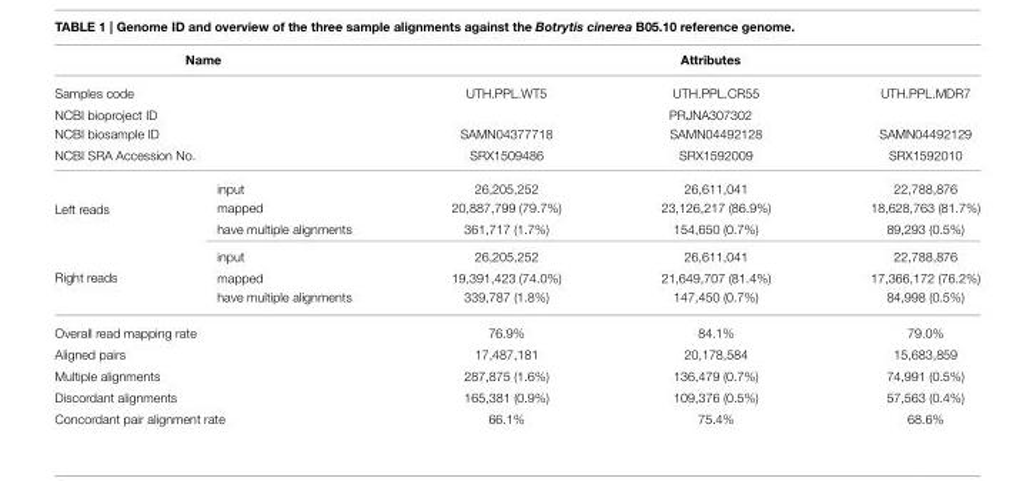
<table><thead><tr><td colspan="2">Name</td><td colspan="3">Attributes</td></tr></thead><tbody><tr><td colspan="2">Samples code</td><td>UTH.PPL.WT5</td><td>UTH.PPL.CR55</td><td>UTH.PPL.MDR7</td></tr><tr><td colspan="2">NCBI bioproject ID</td><td colspan="3">PRJNA307302</td></tr><tr><td colspan="2">NCBI biosample ID</td><td>SAMN04377718</td><td>SAMN04492128</td><td>SAMN04492129</td></tr><tr><td colspan="2">NCBI SRA Accession No.</td><td>SRX1509486</td><td>SRX1592009</td><td>SRX1592010</td></tr><tr><td rowspan="3">Left reads</td><td>input</td><td>26,205,252</td><td>26,611,041</td><td>22,788,876</td></tr><tr><td>mapped</td><td>20,887,799 (79.7%)</td><td>23,126,217 (86.9%)</td><td>18,628,763 (81.7%)</td></tr><tr><td>have multiple alignments</td><td>361,717 (1.7%)</td><td>154,650 (0.7%)</td><td>89,293 (0.5%)</td></tr><tr><td rowspan="3">Right reads</td><td>input</td><td>26,205,252</td><td>26,611,041</td><td>22,788,876</td></tr><tr><td>mapped</td><td>19,391,423 (74.0%)</td><td>21,649,707 (81.4%)</td><td>17,366,172 (76.2%)</td></tr><tr><td>have multiple alignments</td><td>339,787 (1.8%)</td><td>147,450 (0.7%)</td><td>84,998 (0.5%)</td></tr><tr><td colspan="2">Overall read mapping rate</td><td>76.9%</td><td>84.1%</td><td>79.0%</td></tr><tr><td colspan="2">Aligned pairs</td><td>17,487,181</td><td>20,178,584</td><td>15,683,859</td></tr><tr><td colspan="2">Multiple alignments</td><td>287,875 (1.6%)</td><td>136,479 (0.7%)</td><td>74,991 (0.5%)</td></tr><tr><td colspan="2">Discordant alignments</td><td>165,381 (0.9%)</td><td>109,376 (0.5%)</td><td>57,563 (0.4%)</td></tr><tr><td colspan="2">Concordant pair alignment rate</td><td>66.1%</td><td>75.4%</td><td>68.6%</td></tr></tbody></table>